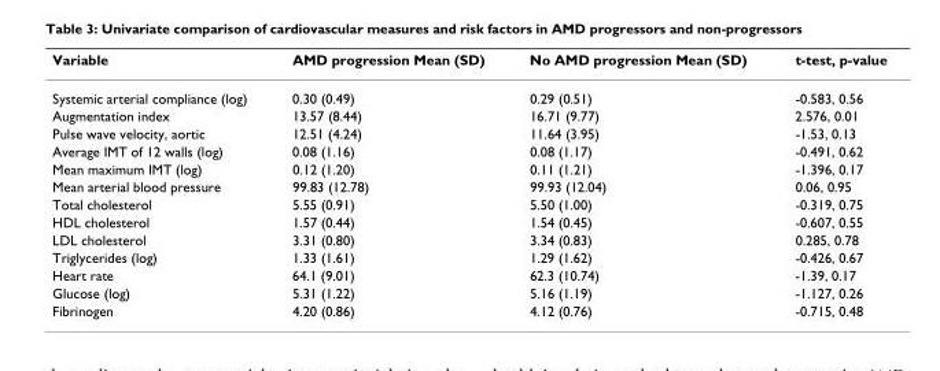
<table><thead><tr><td>Variable</td><td>AMD progression Mean (SD)</td><td>No AMD progression Mean (SD)</td><td>t-test, p-value</td></tr></thead><tbody><tr><td>Systemic arterial compliance (log)</td><td>0.30 (0.49)</td><td>0.29 (0.51)</td><td>-0.583, 0.56</td></tr><tr><td>Augmentation index</td><td>13.57 (8.44)</td><td>16.71 (9.77)</td><td>2.576, 0.01</td></tr><tr><td>Pulse wave velocity, aortic</td><td>12.51 (4.24)</td><td>11.64 (3.95)</td><td>-1.53, 0.13</td></tr><tr><td>Average IMT of 12 walls (log)</td><td>0.08 (1.16)</td><td>0.08 (1.17)</td><td>-0.491, 0.62</td></tr><tr><td>Mean maximum IMT (log)</td><td>0.12 (1.20)</td><td>0.11 (1.21)</td><td>-1.396, 0.17</td></tr><tr><td>Mean arterial blood pressure</td><td>99.83 (12.78)</td><td>99.93 (12.04)</td><td>0.06, 0.95</td></tr><tr><td>Total cholesterol</td><td>5.55 (0.91)</td><td>5.50 (1.00)</td><td>-0.319, 0.75</td></tr><tr><td>HDL cholesterol</td><td>1.57 (0.44)</td><td>1.54 (0.45)</td><td>-0.607, 0.55</td></tr><tr><td>LDL cholesterol</td><td>3.31 (0.80)</td><td>3.34 (0.83)</td><td>0.285, 0.78</td></tr><tr><td>Triglycerides (log)</td><td>1.33 (1.61)</td><td>1.29 (1.62)</td><td>-0.426, 0.67</td></tr><tr><td>Heart rate</td><td>64.1 (9.01)</td><td>62.3 (10.74)</td><td>-1.39, 0.17</td></tr><tr><td>Glucose (log)</td><td>5.31 (1.22)</td><td>5.16 (1.19)</td><td>-1.127, 0.26</td></tr><tr><td>Fibrinogen</td><td>4.20 (0.86)</td><td>4.12 (0.76)</td><td>-0.715, 0.48</td></tr></tbody></table>